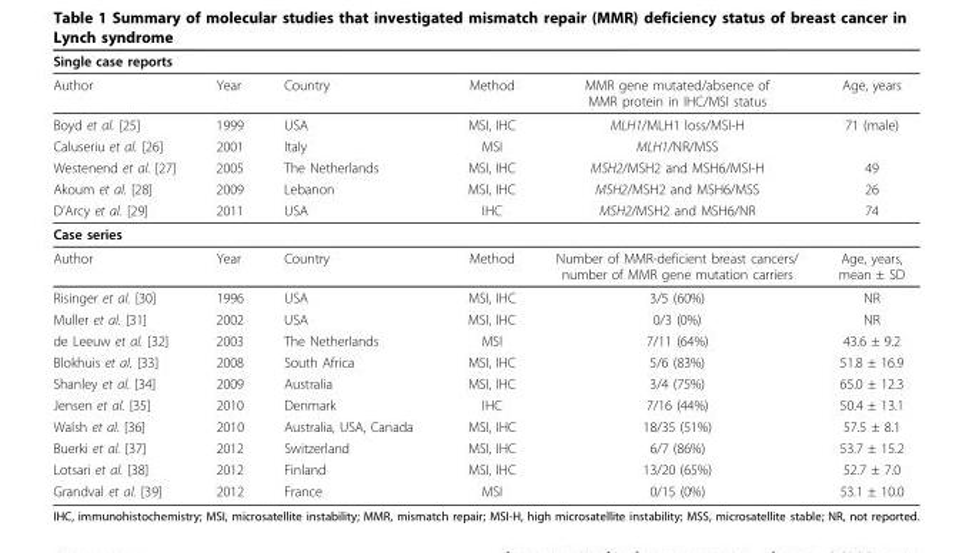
<table><thead><tr><td>Single case reports</td><td></td><td></td><td></td><td></td><td></td></tr></thead><tbody><tr><td>Author</td><td>Year</td><td>Country</td><td>Method</td><td>MMR gene mutated/absence of MMR protein in IHC/MSI status</td><td>Age, years</td></tr><tr><td>Boyd et al. [25]</td><td>1999</td><td>USA</td><td>MSI, IHC</td><td>MLH1/MLH1 loss/MSI-H</td><td>71 (male)</td></tr><tr><td>Caluseriu et al. [26]</td><td>2001</td><td>Italy</td><td>MSI</td><td>MLH1/NR/MSS</td><td></td></tr><tr><td>Westenend et al. [27]</td><td>2005</td><td>The Netherlands</td><td>MSI, IHC</td><td>MSH2/MSH2 and MSH6/MSI-H</td><td>49</td></tr><tr><td>Akoum et al. [28]</td><td>2009</td><td>Lebanon</td><td>MSI, IHC</td><td>MSH2/MSH2 and MSH6/MSS</td><td>26</td></tr><tr><td>D’Arcy et al. [29]</td><td>2011</td><td>USA</td><td>IHC</td><td>MSH2/MSH2 and MSH6/NR</td><td>74</td></tr><tr><td colspan="6">Case series</td></tr><tr><td>Author</td><td>Year</td><td>Country</td><td>Method</td><td>Number of MMR-deficient breast cancers/ number of MMR gene mutation carriers</td><td>Age, years, mean ± SD</td></tr><tr><td>Risinger et al. [30]</td><td>1996</td><td>USA</td><td>MSI, IHC</td><td>3/5 (60%)</td><td>NR</td></tr><tr><td>Muller et al. [31]</td><td>2002</td><td>USA</td><td>MSI, IHC</td><td>0/3 (0%)</td><td>NR</td></tr><tr><td>de Leeuw et al. [32]</td><td>2003</td><td>The Netherlands</td><td>MSI</td><td>7/11 (64%)</td><td>43.6 ± 9.2</td></tr><tr><td>Blokhuis et al. [33]</td><td>2008</td><td>South Africa</td><td>MSI, IHC</td><td>5/6 (83%)</td><td>51.8 ± 16.9</td></tr><tr><td>Shanley et al. [34]</td><td>2009</td><td>Australia</td><td>MSI, IHC</td><td>3/4 (75%)</td><td>65.0 ± 12.3</td></tr><tr><td>Jensen et al. [35]</td><td>2010</td><td>Denmark</td><td>IHC</td><td>7/16 (44%)</td><td>50.4 ± 13.1</td></tr><tr><td>Walsh et al. [36]</td><td>2010</td><td>Australia, USA, Canada</td><td>MSI, IHC</td><td>18/35 (51%)</td><td>57.5 ± 8.1</td></tr><tr><td>Buerki et al. [37]</td><td>2012</td><td>Switzerland</td><td>MSI, IHC</td><td>6/7 (86%)</td><td>53.7 ± 15.2</td></tr><tr><td>Lotsari et al. [38]</td><td>2012</td><td>Finland</td><td>MSI, IHC</td><td>13/20 (65%)</td><td>52.7 ± 7.0</td></tr><tr><td>Grandval et al. [39]</td><td>2012</td><td>France</td><td>MSI</td><td>0/15 (0%)</td><td>53.1 ± 10.0</td></tr></tbody></table>